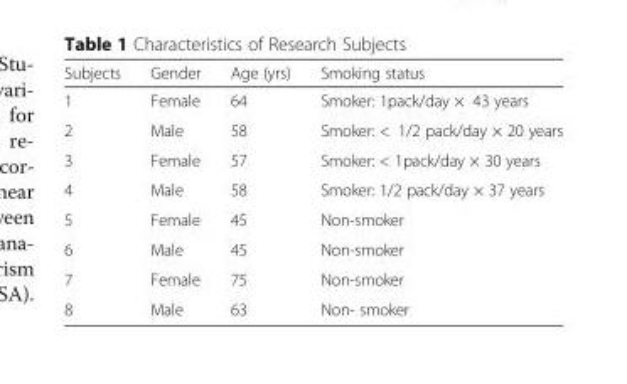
<table><thead><tr><td>Subjects</td><td>Gender</td><td>Age (yrs)</td><td>Smoking status</td></tr></thead><tbody><tr><td>1</td><td>Female</td><td>64</td><td>Smoker: 1pack/day × 43 years</td></tr><tr><td>2</td><td>Male</td><td>58</td><td>Smoker: &lt; 1/2 pack/day × 20 years</td></tr><tr><td>3</td><td>Female</td><td>57</td><td>Smoker: &lt; 1pack/day × 30 years</td></tr><tr><td>4</td><td>Male</td><td>58</td><td>Smoker: 1/2 pack/day × 37 years</td></tr><tr><td>5</td><td>Female</td><td>45</td><td>Non-smoker</td></tr><tr><td>6</td><td>Male</td><td>45</td><td>Non-smoker</td></tr><tr><td>7</td><td>Female</td><td>75</td><td>Non-smoker</td></tr><tr><td>8</td><td>Male</td><td>63</td><td>Non- smoker</td></tr></tbody></table>